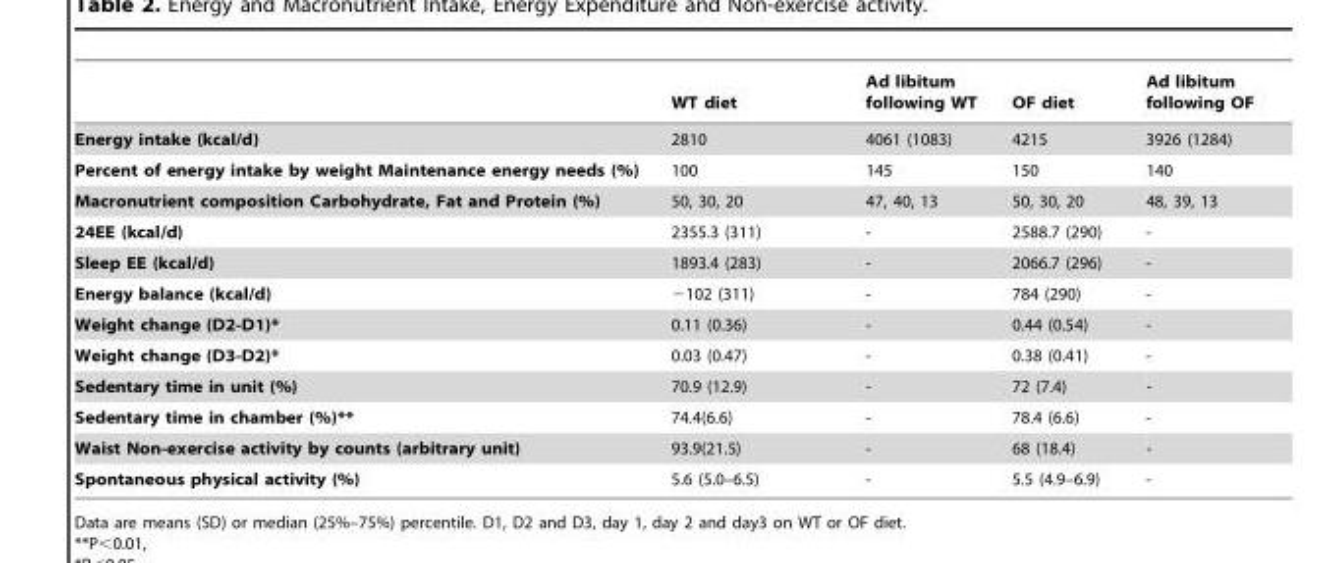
<table><thead><tr><td></td><td>WT diet</td><td>Ad libitum following WT</td><td>OF diet</td><td>Ad libitum following OF</td></tr></thead><tbody><tr><td>Energy intake (kcal/d)</td><td>2810</td><td>4061 (1083)</td><td>4215</td><td>3926 (1284)</td></tr><tr><td>Percent of energy intake by weight Maintenance energy needs (%)</td><td>100</td><td>145</td><td>150</td><td>140</td></tr><tr><td>Macronutrient composition Carbohydrate, Fat and Protein (%)</td><td>50, 30, 20</td><td>47, 40, 13</td><td>50, 30, 20</td><td>48, 39, 13</td></tr><tr><td>24EE (kcal/d)</td><td>2355.3 (311)</td><td>-</td><td>2588.7 (290)</td><td>-</td></tr><tr><td>Sleep EE (kcal/d)</td><td>1893.4 (283)</td><td>-</td><td>2066.7 (296)</td><td>-</td></tr><tr><td>Energy balance (kcal/d)</td><td>−102 (311)</td><td>-</td><td>784 (290)</td><td>-</td></tr><tr><td>Weight change (D2-D1)*</td><td>0.11 (0.36)</td><td>-</td><td>0.44 (0.54)</td><td>-</td></tr><tr><td>Weight change (D3-D2)*</td><td>0.03 (0.47)</td><td>-</td><td>0.38 (0.41)</td><td>-</td></tr><tr><td>Sedentary time in unit (%)</td><td>70.9 (12.9)</td><td>-</td><td>72 (7.4)</td><td>-</td></tr><tr><td>Sedentary time in chamber (%)**</td><td>74.4(6.6)</td><td>-</td><td>78.4 (6.6)</td><td>-</td></tr><tr><td>Waist Non-exercise activity by counts (arbitrary unit)</td><td>93.9(21.5)</td><td>-</td><td>68 (18.4)</td><td>-</td></tr><tr><td>Spontaneous physical activity (%)</td><td>5.6 (5.0–6.5)</td><td>-</td><td>5.5 (4.9–6.9)</td><td>-</td></tr></tbody></table>